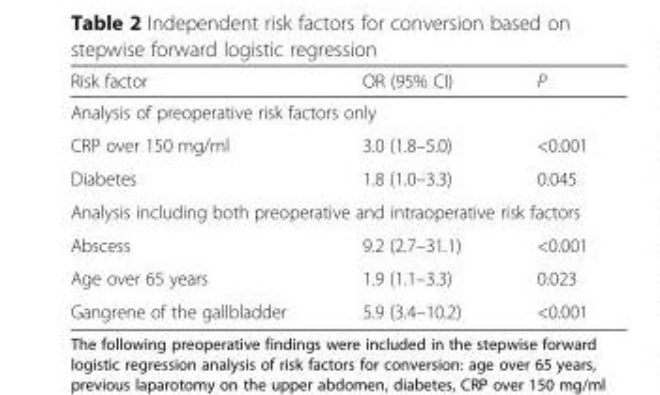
<table><thead><tr><td>Risk factor</td><td>OR (95% CI)</td><td>P</td></tr></thead><tbody><tr><td colspan="3">Analysis of preoperative risk factors only</td></tr><tr><td>CRP over 150 mg/ml</td><td>3.0 (1.8–5.0)</td><td>&lt;0.001</td></tr><tr><td>Diabetes</td><td>1.8 (1.0–3.3)</td><td>0.045</td></tr><tr><td colspan="3">Analysis including both preoperative and intraoperative risk factors</td></tr><tr><td>Abscess</td><td>9.2 (2.7–31.1)</td><td>&lt;0.001</td></tr><tr><td>Age over 65 years</td><td>1.9 (1.1–3.3)</td><td>0.023</td></tr><tr><td>Gangrene of the gallbladder</td><td>5.9 (3.4–10.2)</td><td>&lt;0.001</td></tr></tbody></table>